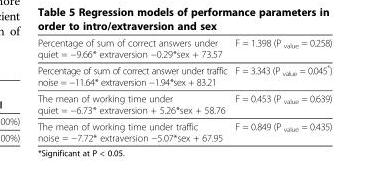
<table><tbody><tr><td>Percentage of sum of correct answers under quiet = −9.66* extraversion −0.29*sex + 73.57</td><td>F = 1.398 (P <sub>value</sub> = 0.258)</td></tr><tr><td>Percentage of sum of correct answer under traffic noise = −11.64* extraversion −1.94*sex + 83.21</td><td>F = 3.343 (P <sub>value</sub> = 0.045*)</td></tr><tr><td>The mean of working time under quiet = −6.73* extraversion + 5.26*sex + 58.76</td><td>F = 0.453 (P <sub>value</sub> = 0.639)</td></tr><tr><td>The mean of working time under traffic noise = −7.72* extraversion −5.07*sex + 67.95</td><td>F = 0.849 (P <sub>value</sub> = 0.435)</td></tr></tbody></table>